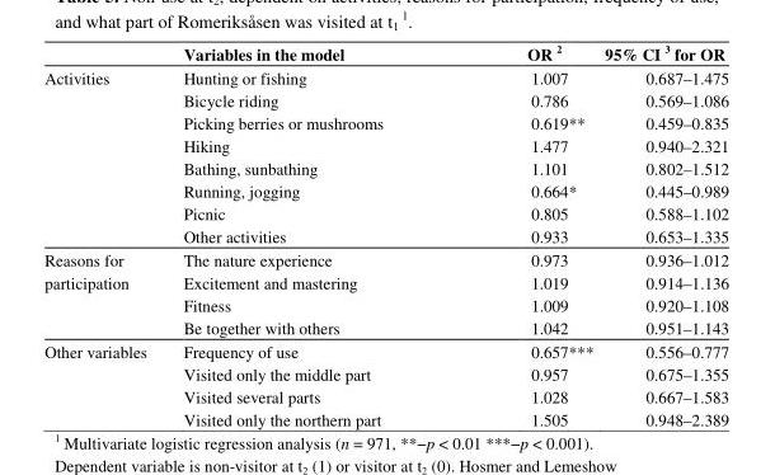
<table><thead><tr><td></td><td>Variables in the model</td><td>OR 2</td><td>95% CI 3 for OR</td></tr></thead><tbody><tr><td rowspan="8">Activities</td><td>Hunting or fishing</td><td>1.007</td><td>0.687–1.475</td></tr><tr><td>Bicycle riding</td><td>0.786</td><td>0.569–1.086</td></tr><tr><td>Picking berries or mushrooms</td><td>0.619**</td><td>0.459–0.835</td></tr><tr><td>Hiking</td><td>1.477</td><td>0.940–2.321</td></tr><tr><td>Bathing, sunbathing</td><td>1.101</td><td>0.802–1.512</td></tr><tr><td>Running, jogging</td><td>0.664*</td><td>0.445–0.989</td></tr><tr><td>Picnic</td><td>0.805</td><td>0.588–1.102</td></tr><tr><td>Other activities</td><td>0.933</td><td>0.653–1.335</td></tr><tr><td rowspan="4">Reasons for participation</td><td>The nature experience</td><td>0.973</td><td>0.936–1.012</td></tr><tr><td>Excitement and mastering</td><td>1.019</td><td>0.914–1.136</td></tr><tr><td>Fitness</td><td>1.009</td><td>0.920–1.108</td></tr><tr><td>Be together with others</td><td>1.042</td><td>0.951–1.143</td></tr><tr><td rowspan="4">Other variables</td><td>Frequency of use</td><td>0.657***</td><td>0.556–0.777</td></tr><tr><td>Visited only the middle part</td><td>0.957</td><td>0.675–1.355</td></tr><tr><td>Visited several parts</td><td>1.028</td><td>0.667–1.583</td></tr><tr><td>Visited only the northern part</td><td>1.505</td><td>0.948–2.389</td></tr></tbody></table>